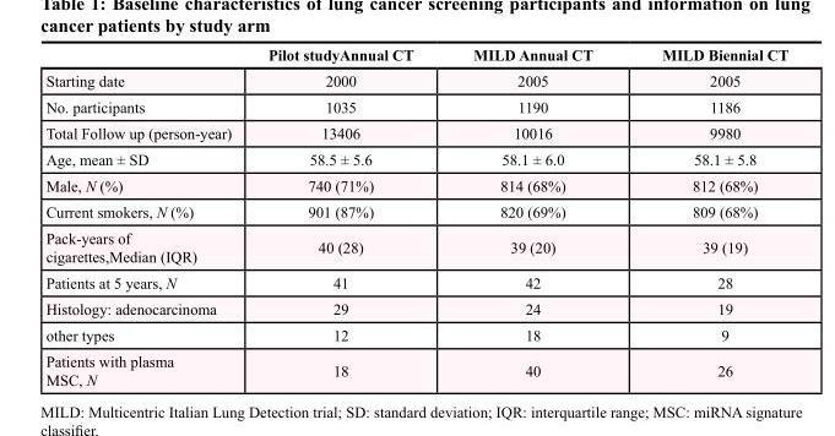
<table><thead><tr><td></td><td>Pilot studyAnnual CT</td><td>MILD Annual CT</td><td>MILD Biennial CT</td></tr></thead><tbody><tr><td>Starting date</td><td>2000</td><td>2005</td><td>2005</td></tr><tr><td>No. participants</td><td>1035</td><td>1190</td><td>1186</td></tr><tr><td>Total Follow up (person-year)</td><td>13406</td><td>10016</td><td>9980</td></tr><tr><td>Age, mean ± SD</td><td>58.5 ± 5.6</td><td>58.1 ± 6.0</td><td>58.1 ± 5.8</td></tr><tr><td>Male, N (%)</td><td>740 (71%)</td><td>814 (68%)</td><td>812 (68%)</td></tr><tr><td>Current smokers, N (%)</td><td>901 (87%)</td><td>820 (69%)</td><td>809 (68%)</td></tr><tr><td>Pack-years of cigarettes,Median (IQR)</td><td>40 (28)</td><td>39 (20)</td><td>39 (19)</td></tr><tr><td>Patients at 5 years, N</td><td>41</td><td>42</td><td>28</td></tr><tr><td>Histology: adenocarcinoma</td><td>29</td><td>24</td><td>19</td></tr><tr><td>other types</td><td>12</td><td>18</td><td>9</td></tr><tr><td>Patients with plasma MSC, N</td><td>18</td><td>40</td><td>26</td></tr></tbody></table>